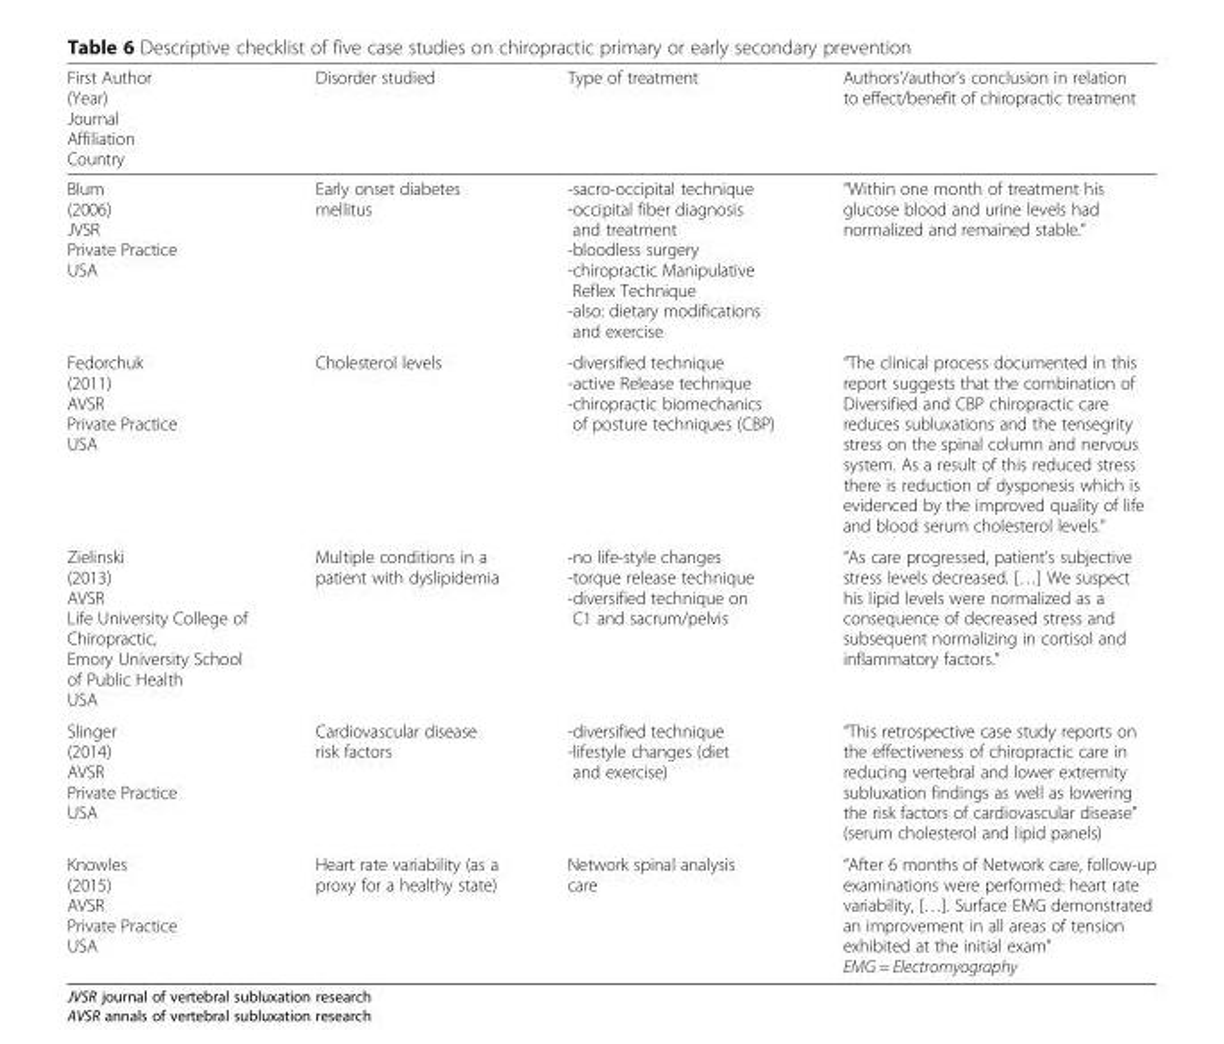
<table><thead><tr><td>First Author (Year) Journal Affiliation Country</td><td>Disorder studied</td><td>Type of treatment</td><td>Authors’/author’s conclusion in relation to effect/benefit of chiropractic treatment</td></tr></thead><tbody><tr><td>Blum (2006) JVSR Private Practice USA</td><td>Early onset diabetes mellitus</td><td>-sacro-occipital technique -occipital fiber diagnosis and treatment -bloodless surgery -chiropractic Manipulative Reflex Technique -also: dietary modifications and exercise</td><td>“Within one month of treatment his glucose blood and urine levels had normalized and remained stable.”</td></tr><tr><td>Fedorchuk (2011) AVSR Private Practice USA</td><td>Cholesterol levels</td><td>-diversified technique -active Release technique -chiropractic biomechanics of posture techniques (CBP)</td><td>“The clinical process documented in this report suggests that the combination of Diversified and CBP chiropractic care reduces subluxations and the tensegrity stress on the spinal column and nervous system. As a result of this reduced stress there is reduction of dysponesis which is evidenced by the improved quality of life and blood serum cholesterol levels.”</td></tr><tr><td>Zielinski (2013) AVSR Life University College of Chiropractic, Emory University School of Public Health USA</td><td>Multiple conditions in a patient with dyslipidemia</td><td>-no life-style changes -torque release technique -diversified technique on C1 and sacrum/pelvis</td><td>“As care progressed, patient’s subjective stress levels decreased. […] We suspect his lipid levels were normalized as a consequence of decreased stress and subsequent normalizing in cortisol and inflammatory factors.”</td></tr><tr><td>Slinger (2014) AVSR Private Practice USA</td><td>Cardiovascular disease risk factors</td><td>-diversified technique -lifestyle changes (diet and exercise)</td><td>“This retrospective case study reports on the effectiveness of chiropractic care in reducing vertebral and lower extremity subluxation findings as well as lowering the risk factors of cardiovascular disease” (serum cholesterol and lipid panels)</td></tr><tr><td>Knowles (2015) AVSR Private Practice USA</td><td>Heart rate variability (as a proxy for a healthy state)</td><td>Network spinal analysis care</td><td>“After 6 months of Network care, follow-up examinations were performed: heart rate variability, […]. Surface EMG demonstrated an improvement in all areas of tension exhibited at the initial exam” EMG = Electromyography</td></tr></tbody></table>